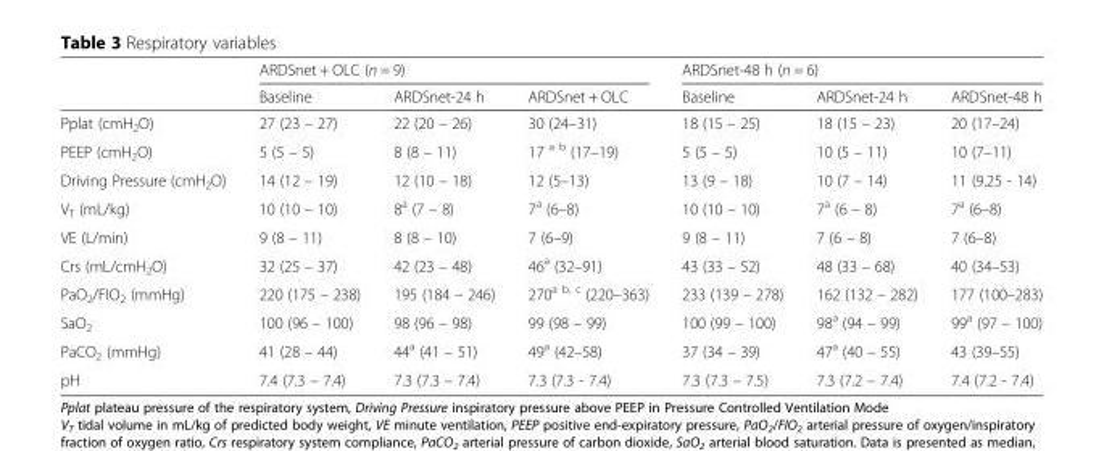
<table><thead><tr><td rowspan="2"></td><td colspan="3">ARDSnet + OLC (n = 9)</td><td colspan="3">ARDSnet-48 h (n = 6)</td></tr><tr><td>Baseline</td><td>ARDSnet-24 h</td><td>ARDSnet + OLC</td><td>Baseline</td><td>ARDSnet-24 h</td><td>ARDSnet-48 h</td></tr></thead><tbody><tr><td>Pplat (cmH<sub>2</sub>O)</td><td>27 (23 – 27)</td><td>22 (20 – 26)</td><td>30 (24–31)</td><td>18 (15 – 25)</td><td>18 (15 – 23)</td><td>20 (17–24)</td></tr><tr><td>PEEP (cmH<sub>2</sub>O)</td><td>5 (5 – 5)</td><td>8 (8 – 11)</td><td>17 <sup>a b</sup> (17–19)</td><td>5 (5 – 5)</td><td>10 (5 – 11)</td><td>10 (7–11)</td></tr><tr><td>Driving Pressure (cmH<sub>2</sub>O)</td><td>14 (12 – 19)</td><td>12 (10 – 18)</td><td>12 (5–13)</td><td>13 (9 – 18)</td><td>10 (7 – 14)</td><td>11 (9.25 - 14)</td></tr><tr><td>V<sub>T</sub> (mL/kg)</td><td>10 (10 – 10)</td><td>8<sup>a</sup> (7 – 8)</td><td>7<sup>a</sup> (6–8)</td><td>10 (10 – 10)</td><td>7<sup>a</sup> (6 – 8)</td><td>7<sup>a</sup> (6–8)</td></tr><tr><td>VE (L/min)</td><td>9 (8 – 11)</td><td>8 (8 – 10)</td><td>7 (6–9)</td><td>9 (8 – 11)</td><td>7 (6 – 8)</td><td>7 (6–8)</td></tr><tr><td>Crs (mL/cmH<sub>2</sub>O)</td><td>32 (25 – 37)</td><td>42 (23 – 48)</td><td>46<sup>a</sup> (32–91)</td><td>43 (33 – 52)</td><td>48 (33 – 68)</td><td>40 (34–53)</td></tr><tr><td>PaO<sub>2</sub>/FIO<sub>2</sub> (mmHg)</td><td>220 (175 – 238)</td><td>195 (184 – 246)</td><td>270<sup>a b, c</sup> (220–363)</td><td>233 (139 – 278)</td><td>162 (132 – 282)</td><td>177 (100–283)</td></tr><tr><td>SaO<sub>2</sub></td><td>100 (96 – 100)</td><td>98 (96 – 98)</td><td>99 (98 – 99)</td><td>100 (99 – 100)</td><td>98<sup>a</sup> (94 – 99)</td><td>99<sup>a</sup> (97 – 100)</td></tr><tr><td>PaCO<sub>2</sub> (mmHg)</td><td>41 (28 – 44)</td><td>44<sup>a</sup> (41 – 51)</td><td>49<sup>a</sup> (42–58)</td><td>37 (34 – 39)</td><td>47<sup>a</sup> (40 – 55)</td><td>43 (39–55)</td></tr><tr><td>pH</td><td>7.4 (7.3 – 7.4)</td><td>7.3 (7.3 – 7.4)</td><td>7.3 (7.3 - 7.4)</td><td>7.3 (7.3 – 7.5)</td><td>7.3 (7.2 – 7.4)</td><td>7.4 (7.2 - 7.4)</td></tr></tbody></table>